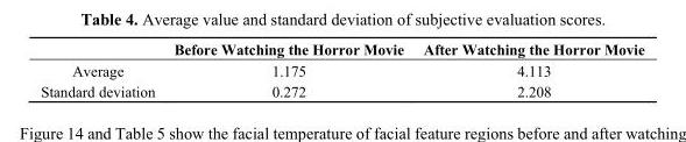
<table><thead><tr><td></td><td>Before Watching the Horror Movie</td><td>After Watching the Horror Movie</td></tr></thead><tbody><tr><td>Average</td><td>1.175</td><td>4.113</td></tr><tr><td>Standard deviation</td><td>0.272</td><td>2.208</td></tr></tbody></table>